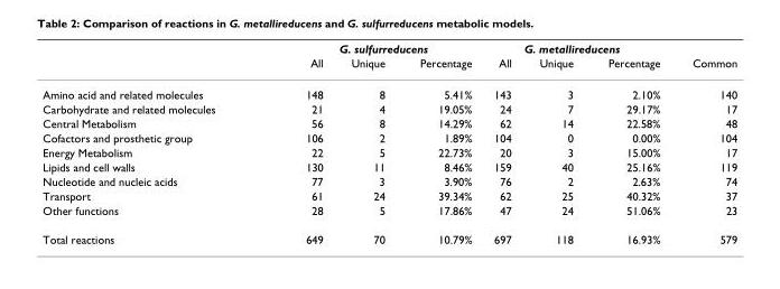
<table><thead><tr><td rowspan="2"></td><td colspan="3">G. sulfurreducens</td><td colspan="3">G. metallireducens</td><td rowspan="2">Common</td></tr><tr><td>All</td><td>Unique</td><td>Percentage</td><td>All</td><td>Unique</td><td>Percentage</td></tr></thead><tbody><tr><td>Amino acid and related molecules</td><td>148</td><td>8</td><td>5.41%</td><td>143</td><td>3</td><td>2.10%</td><td>140</td></tr><tr><td>Carbohydrate and related molecules</td><td>21</td><td>4</td><td>19.05%</td><td>24</td><td>7</td><td>29.17%</td><td>17</td></tr><tr><td>Central Metabolism</td><td>56</td><td>8</td><td>14.29%</td><td>62</td><td>14</td><td>22.58%</td><td>48</td></tr><tr><td>Cofactors and prosthetic group</td><td>106</td><td>2</td><td>1.89%</td><td>104</td><td>0</td><td>0.00%</td><td>104</td></tr><tr><td>Energy Metabolism</td><td>22</td><td>5</td><td>22.73%</td><td>20</td><td>3</td><td>15.00%</td><td>17</td></tr><tr><td>Lipids and cell walls</td><td>130</td><td>11</td><td>8.46%</td><td>159</td><td>40</td><td>25.16%</td><td>119</td></tr><tr><td>Nucleotide and nucleic acids</td><td>77</td><td>3</td><td>3.90%</td><td>76</td><td>2</td><td>2.63%</td><td>74</td></tr><tr><td>Transport</td><td>61</td><td>24</td><td>39.34%</td><td>62</td><td>25</td><td>40.32%</td><td>37</td></tr><tr><td>Other functions</td><td>28</td><td>5</td><td>17.86%</td><td>47</td><td>24</td><td>51.06%</td><td>23</td></tr><tr><td>Total reactions</td><td>649</td><td>70</td><td>10.79%</td><td>697</td><td>118</td><td>16.93%</td><td>579</td></tr></tbody></table>